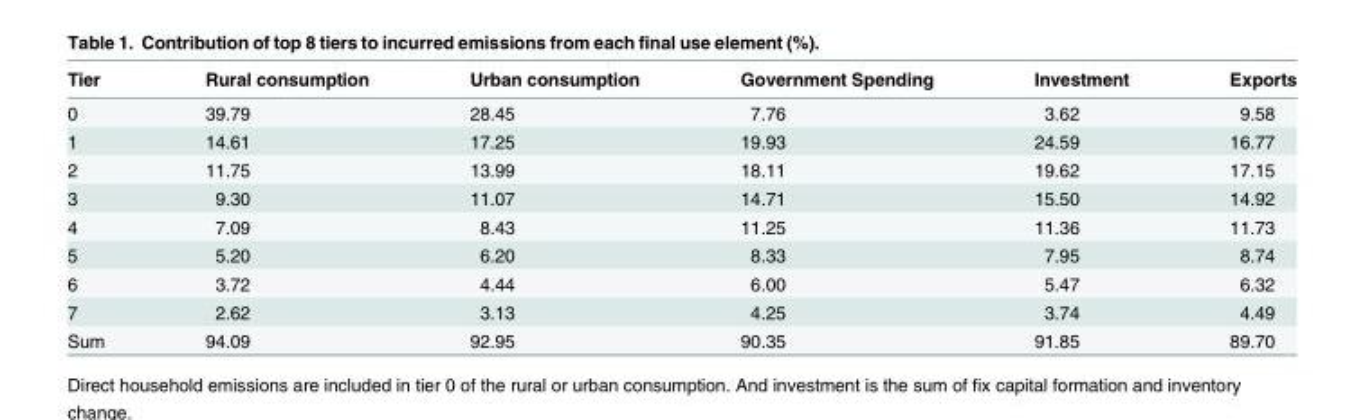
<table><thead><tr><td>Tier</td><td>Rural consumption</td><td>Urban consumption</td><td>Government Spending</td><td>Investment</td><td>Exports</td></tr></thead><tbody><tr><td>0</td><td>39.79</td><td>28.45</td><td>7.76</td><td>3.62</td><td>9.58</td></tr><tr><td>1</td><td>14.61</td><td>17.25</td><td>19.93</td><td>24.59</td><td>16.77</td></tr><tr><td>2</td><td>11.75</td><td>13.99</td><td>18.11</td><td>19.62</td><td>17.15</td></tr><tr><td>3</td><td>9.30</td><td>11.07</td><td>14.71</td><td>15.50</td><td>14.92</td></tr><tr><td>4</td><td>7.09</td><td>8.43</td><td>11.25</td><td>11.36</td><td>11.73</td></tr><tr><td>5</td><td>5.20</td><td>6.20</td><td>8.33</td><td>7.95</td><td>8.74</td></tr><tr><td>6</td><td>3.72</td><td>4.44</td><td>6.00</td><td>5.47</td><td>6.32</td></tr><tr><td>7</td><td>2.62</td><td>3.13</td><td>4.25</td><td>3.74</td><td>4.49</td></tr><tr><td>Sum</td><td>94.09</td><td>92.95</td><td>90.35</td><td>91.85</td><td>89.70</td></tr></tbody></table>